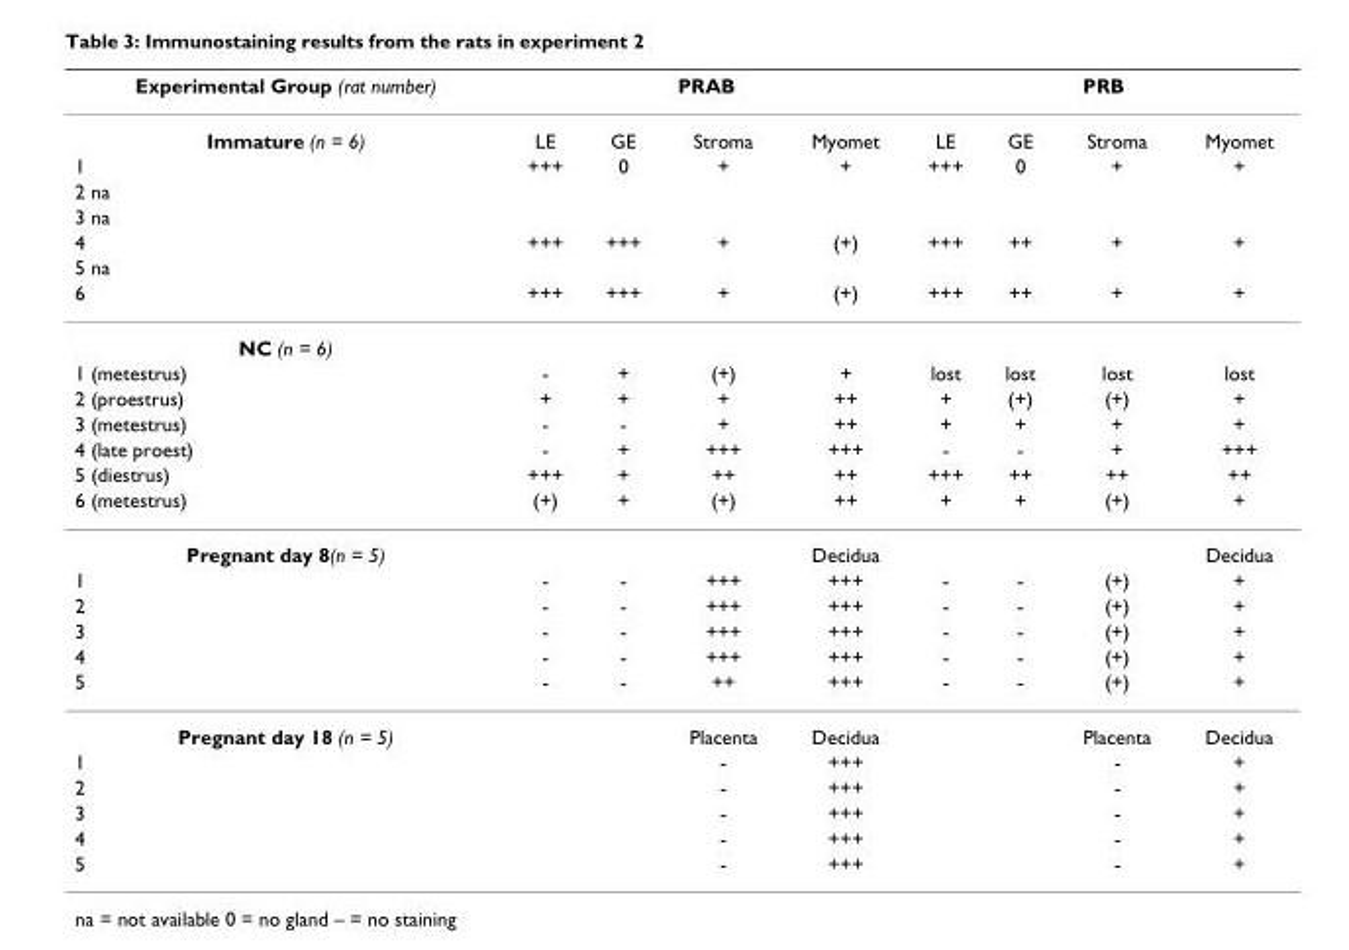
<table><thead><tr><td rowspan="2">Experimental Group (rat number) Immature (n = 6)</td><td colspan="4">PRAB</td><td colspan="4">PRB</td></tr><tr><td>LE</td><td>GE</td><td>Stroma</td><td>Myomet</td><td>LE</td><td>GE</td><td>Stroma</td><td>Myomet</td></tr></thead><tbody><tr><td>1</td><td>+++</td><td>0</td><td>+</td><td>+</td><td>+++</td><td>0</td><td>+</td><td>+</td></tr><tr><td colspan="9">2 na</td></tr><tr><td colspan="9">3 na</td></tr><tr><td>4</td><td>+++</td><td>+++</td><td>+</td><td>(+)</td><td>+++</td><td>++</td><td>+</td><td>+</td></tr><tr><td colspan="9">5 na</td></tr><tr><td>6</td><td>+++</td><td>+++</td><td>+</td><td>(+)</td><td>+++</td><td>++</td><td>+</td><td>+</td></tr><tr><td colspan="9">NC (n = 6)</td></tr><tr><td>1 (metestrus)</td><td>-</td><td>+</td><td>(+)</td><td>+</td><td>lost</td><td>lost</td><td>lost</td><td>lost</td></tr><tr><td>2 (proestrus)</td><td>+</td><td>+</td><td>+</td><td>++</td><td>+</td><td>(+)</td><td>(+)</td><td>+</td></tr><tr><td>3 (metestrus)</td><td>-</td><td>-</td><td>+</td><td>++</td><td>+</td><td>+</td><td>+</td><td>+</td></tr><tr><td>4 (late proest)</td><td>-</td><td>+</td><td>+++</td><td>+++</td><td>-</td><td>-</td><td>+</td><td>+++</td></tr><tr><td>5 (diestrus)</td><td>+++</td><td>+</td><td>++</td><td>++</td><td>+++</td><td>++</td><td>++</td><td>++</td></tr><tr><td>6 (metestrus)</td><td>(+)</td><td>+</td><td>(+)</td><td>++</td><td>+</td><td>+</td><td>(+)</td><td>+</td></tr><tr><td>Pregnant day 8(n = 5)</td><td></td><td></td><td></td><td>Decidua</td><td></td><td></td><td></td><td>Decidua</td></tr><tr><td>1</td><td>-</td><td>-</td><td>+++</td><td>+++</td><td>-</td><td>-</td><td>(+)</td><td>+</td></tr><tr><td>2</td><td>-</td><td>-</td><td>+++</td><td>+++</td><td>-</td><td>-</td><td>(+)</td><td>+</td></tr><tr><td>3</td><td>-</td><td>-</td><td>+++</td><td>+++</td><td>-</td><td>-</td><td>(+)</td><td>+</td></tr><tr><td>4</td><td>-</td><td>-</td><td>+++</td><td>+++</td><td>-</td><td>-</td><td>(+)</td><td>+</td></tr><tr><td>5</td><td>-</td><td>-</td><td>++</td><td>+++</td><td>-</td><td>-</td><td>(+)</td><td>+</td></tr><tr><td>Pregnant day 18 (n = 5)</td><td></td><td></td><td>Placenta</td><td>Decidua</td><td></td><td></td><td>Placenta</td><td>Decidua</td></tr><tr><td>1</td><td></td><td></td><td>-</td><td>+++</td><td></td><td></td><td>-</td><td>+</td></tr><tr><td>2</td><td></td><td></td><td>-</td><td>+++</td><td></td><td></td><td>-</td><td>+</td></tr><tr><td>3</td><td></td><td></td><td>-</td><td>+++</td><td></td><td></td><td>-</td><td>+</td></tr><tr><td>4</td><td></td><td></td><td>-</td><td>+++</td><td></td><td></td><td>-</td><td>+</td></tr><tr><td>5</td><td></td><td></td><td>-</td><td>+++</td><td></td><td></td><td>-</td><td>+</td></tr></tbody></table>